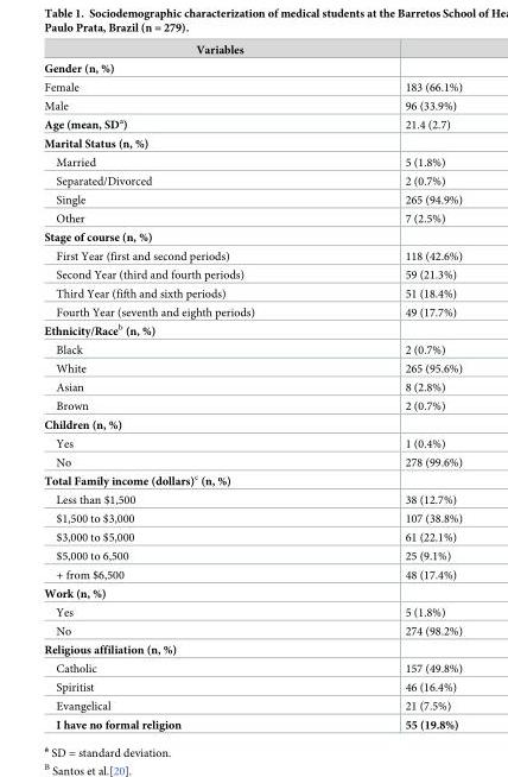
<table><thead><tr><td>Variables</td><td></td></tr></thead><tbody><tr><td colspan="2">Gender (n, %)</td></tr><tr><td>Female</td><td>183 (66.1%)</td></tr><tr><td>Male</td><td>96 (33.9%)</td></tr><tr><td>Age (mean, SD<sup>a</sup>)</td><td>21.4 (2.7)</td></tr><tr><td colspan="2">Marital Status (n, %)</td></tr><tr><td>Married</td><td>5 (1.8%)</td></tr><tr><td>Separated/Divorced</td><td>2 (0.7%)</td></tr><tr><td>Single</td><td>265 (94.9%)</td></tr><tr><td>Other</td><td>7 (2.5%)</td></tr><tr><td colspan="2">Stage of course (n, %)</td></tr><tr><td>First Year (first and second periods)</td><td>118 (42.6%)</td></tr><tr><td>Second Year (third and fourth periods)</td><td>59 (21.3%)</td></tr><tr><td>Third Year (fifth and sixth periods)</td><td>51 (18.4%)</td></tr><tr><td>Fourth Year (seventh and eighth periods)</td><td>49 (17.7%)</td></tr><tr><td colspan="2">Ethnicity/Race<sup>b</sup> (n, %)</td></tr><tr><td>Black</td><td>2 (0.7%)</td></tr><tr><td>White</td><td>265 (95.6%)</td></tr><tr><td>Asian</td><td>8 (2.8%)</td></tr><tr><td>Brown</td><td>2 (0.7%)</td></tr><tr><td colspan="2">Children (n, %)</td></tr><tr><td>Yes</td><td>1 (0.4%)</td></tr><tr><td>No</td><td>278 (99.6%)</td></tr><tr><td colspan="2">Total Family income (dollars)<sup>c</sup> (n, %)</td></tr><tr><td>Less than $1,500</td><td>38 (12.7%)</td></tr><tr><td>$1,500 to $3,000</td><td>107 (38.8%)</td></tr><tr><td>$3,000 to $5,000</td><td>61 (22.1%)</td></tr><tr><td>$5,000 to 6,500</td><td>25 (9.1%)</td></tr><tr><td>+ from $6,500</td><td>48 (17.4%)</td></tr><tr><td colspan="2">Work (n, %)</td></tr><tr><td>Yes</td><td>5 (1.8%)</td></tr><tr><td>No</td><td>274 (98.2%)</td></tr><tr><td colspan="2">Religious affiliation (n, %)</td></tr><tr><td>Catholic</td><td>157 (49.8%)</td></tr><tr><td>Spiritist</td><td>46 (16.4%)</td></tr><tr><td>Evangelical</td><td>21 (7.5%)</td></tr><tr><td>I have no formal religion</td><td>55 (19.8%)</td></tr></tbody></table>